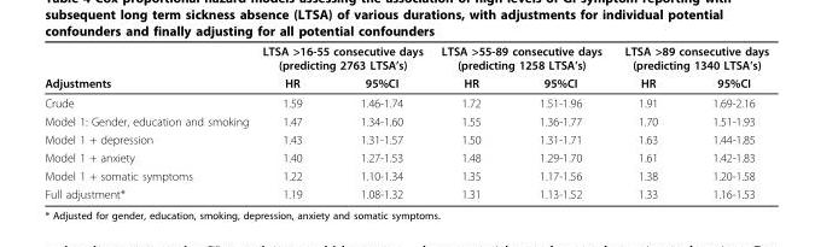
<table><thead><tr><td rowspan="2">Adjustments</td><td colspan="2">LTSA &gt;16-55 consecutive days (predicting 2763 LTSA’s)</td><td colspan="2">LTSA &gt;55-89 consecutive days (predicting 1258 LTSA’s)</td><td colspan="2">LTSA &gt;89 consecutive days (predicting 1340 LTSA’s)</td></tr><tr><td>HR</td><td>95%CI</td><td>HR</td><td>95%CI</td><td>HR</td><td>95%CI</td></tr></thead><tbody><tr><td>Crude</td><td>1.59</td><td>1.46-1.74</td><td>1.72</td><td>1.51-1.96</td><td>1.91</td><td>1.69-2.16</td></tr><tr><td>Model 1: Gender, education and smoking</td><td>1.47</td><td>1.34-1.60</td><td>1.55</td><td>1.36-1.77</td><td>1.70</td><td>1.51-1.93</td></tr><tr><td>Model 1 + depression</td><td>1.43</td><td>1.31-1.57</td><td>1.50</td><td>1.31-1.71</td><td>1.63</td><td>1.44-1.85</td></tr><tr><td>Model 1 + anxiety</td><td>1.40</td><td>1.27-1.53</td><td>1.48</td><td>1.29-1.70</td><td>1.61</td><td>1.42-1.83</td></tr><tr><td>Model 1 + somatic symptoms</td><td>1.22</td><td>1.10-1.34</td><td>1.35</td><td>1.17-1.56</td><td>1.38</td><td>1.20-1.58</td></tr><tr><td>Full adjustment*</td><td>1.19</td><td>1.08-1.32</td><td>1.31</td><td>1.13-1.52</td><td>1.33</td><td>1.16-1.53</td></tr></tbody></table>